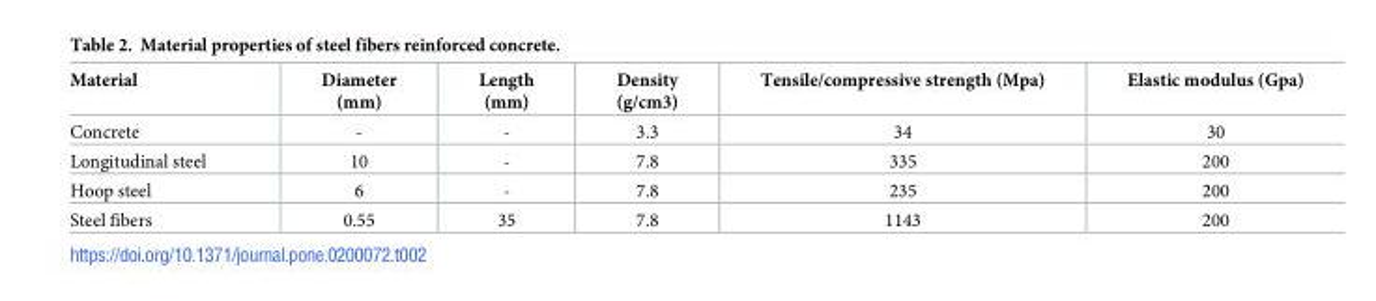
<table><thead><tr><td>Material</td><td>Diameter (mm)</td><td>Length (mm)</td><td>Density (g/cm3)</td><td>Tensile/compressive strength (Mpa)</td><td>Elastic modulus (Gpa)</td></tr></thead><tbody><tr><td>Concrete</td><td>-</td><td>-</td><td>3.3</td><td>34</td><td>30</td></tr><tr><td>Longitudinal steel</td><td>10</td><td>-</td><td>7.8</td><td>335</td><td>200</td></tr><tr><td>Hoop steel</td><td>6</td><td>-</td><td>7.8</td><td>235</td><td>200</td></tr><tr><td>Steel fibers</td><td>0.55</td><td>35</td><td>7.8</td><td>1143</td><td>200</td></tr></tbody></table>